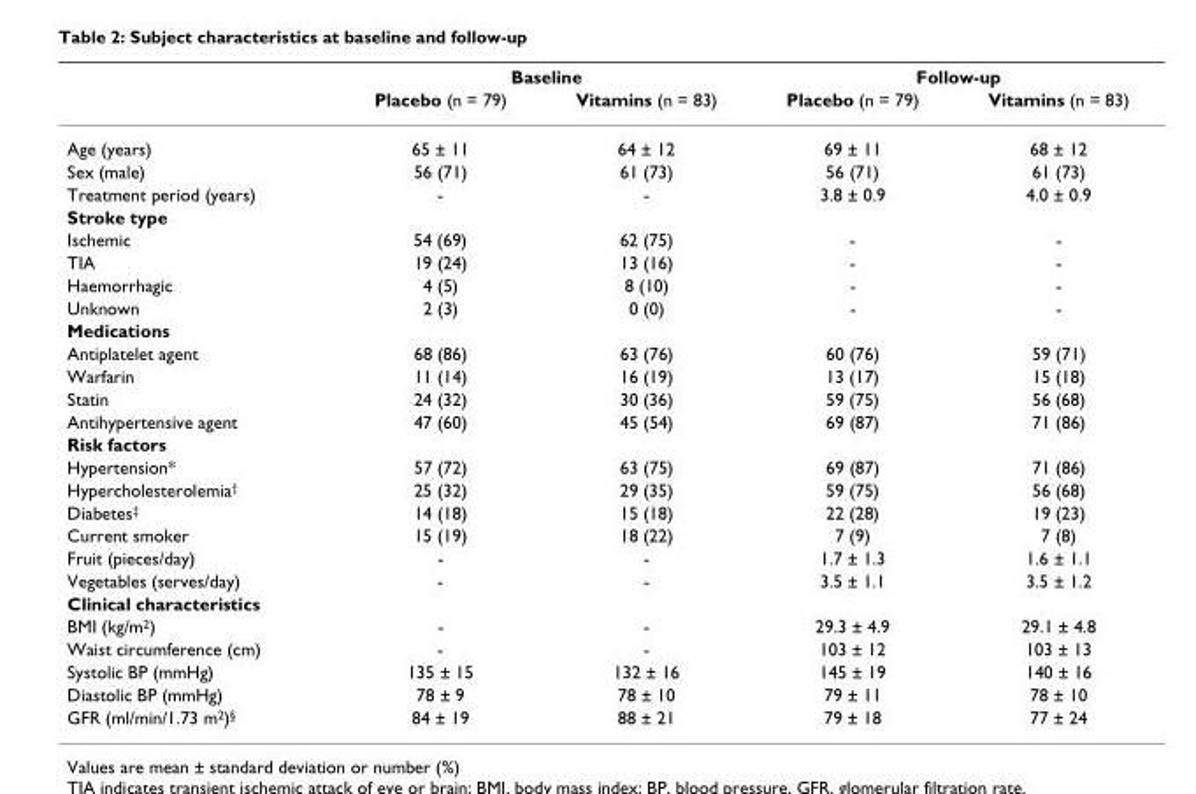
<table><thead><tr><td rowspan="2"></td><td colspan="2">Baseline</td><td colspan="2">Follow-up</td></tr><tr><td>Placebo (n = 79)</td><td>Vitamins (n = 83)</td><td>Placebo (n = 79)</td><td>Vitamins (n = 83)</td></tr></thead><tbody><tr><td>Age (years)</td><td>65 ± 11</td><td>64 ± 12</td><td>69 ± 11</td><td>68 ± 12</td></tr><tr><td>Sex (male)</td><td>56 (71)</td><td>61 (73)</td><td>56 (71)</td><td>61 (73)</td></tr><tr><td>Treatment period (years)</td><td>-</td><td>-</td><td>3.8 ± 0.9</td><td>4.0 ± 0.9</td></tr><tr><td colspan="5">Stroke type</td></tr><tr><td>Ischemic</td><td>54 (69)</td><td>62 (75)</td><td>-</td><td>-</td></tr><tr><td>TIA</td><td>19 (24)</td><td>13 (16)</td><td>-</td><td>-</td></tr><tr><td>Haemorrhagic</td><td>4 (5)</td><td>8 (10)</td><td>-</td><td>-</td></tr><tr><td>Unknown</td><td>2 (3)</td><td>0 (0)</td><td>-</td><td>-</td></tr><tr><td colspan="5">Medications</td></tr><tr><td>Antiplatelet agent</td><td>68 (86)</td><td>63 (76)</td><td>60 (76)</td><td>59 (71)</td></tr><tr><td>Warfarin</td><td>11 (14)</td><td>16 (19)</td><td>13 (17)</td><td>15 (18)</td></tr><tr><td>Statin</td><td>24 (32)</td><td>30 (36)</td><td>59 (75)</td><td>56 (68)</td></tr><tr><td>Antihypertensive agent</td><td>47 (60)</td><td>45 (54)</td><td>69 (87)</td><td>71 (86)</td></tr><tr><td colspan="5">Risk factors</td></tr><tr><td>Hypertension*</td><td>57 (72)</td><td>63 (75)</td><td>69 (87)</td><td>71 (86)</td></tr><tr><td>Hypercholesterolemia<sup>†</sup></td><td>25 (32)</td><td>29 (35)</td><td>59 (75)</td><td>56 (68)</td></tr><tr><td>Diabetes<sup>‡</sup></td><td>14 (18)</td><td>15 (18)</td><td>22 (28)</td><td>19 (23)</td></tr><tr><td>Current smoker</td><td>15 (19)</td><td>18 (22)</td><td>7 (9)</td><td>7 (8)</td></tr><tr><td>Fruit (pieces/day)</td><td>-</td><td>-</td><td>1.7 ± 1.3</td><td>1.6 ± 1.1</td></tr><tr><td>Vegetables (serves/day)</td><td>-</td><td>-</td><td>3.5 ± 1.1</td><td>3.5 ± 1.2</td></tr><tr><td colspan="5">Clinical characteristics</td></tr><tr><td>BMI (kg/m<sup>2</sup>)</td><td>-</td><td>-</td><td>29.3 ± 4.9</td><td>29.1 ± 4.8</td></tr><tr><td>Waist circumference (cm)</td><td>-</td><td>-</td><td>103 ± 12</td><td>103 ± 13</td></tr><tr><td>Systolic BP (mmHg)</td><td>135 ± 15</td><td>132 ± 16</td><td>145 ± 19</td><td>140 ± 16</td></tr><tr><td>Diastolic BP (mmHg)</td><td>78 ± 9</td><td>78 ± 10</td><td>79 ± 11</td><td>78 ± 10</td></tr><tr><td>GFR (ml/min/1.73 m<sup>2</sup>)<sup>§</sup></td><td>84 ± 19</td><td>88 ± 21</td><td>79 ± 18</td><td>77 ± 24</td></tr></tbody></table>